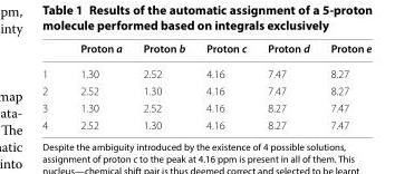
<table><thead><tr><td></td><td>Proton a</td><td>Proton b</td><td>Proton c</td><td>Proton d</td><td>Proton e</td></tr></thead><tbody><tr><td>1</td><td>1.30</td><td>2.52</td><td>4.16</td><td>7.47</td><td>8.27</td></tr><tr><td>2</td><td>2.52</td><td>1.30</td><td>4.16</td><td>7.47</td><td>8.27</td></tr><tr><td>3</td><td>1.30</td><td>2.52</td><td>4.16</td><td>8.27</td><td>7.47</td></tr><tr><td>4</td><td>2.52</td><td>1.30</td><td>4.16</td><td>8.27</td><td>7.47</td></tr></tbody></table>